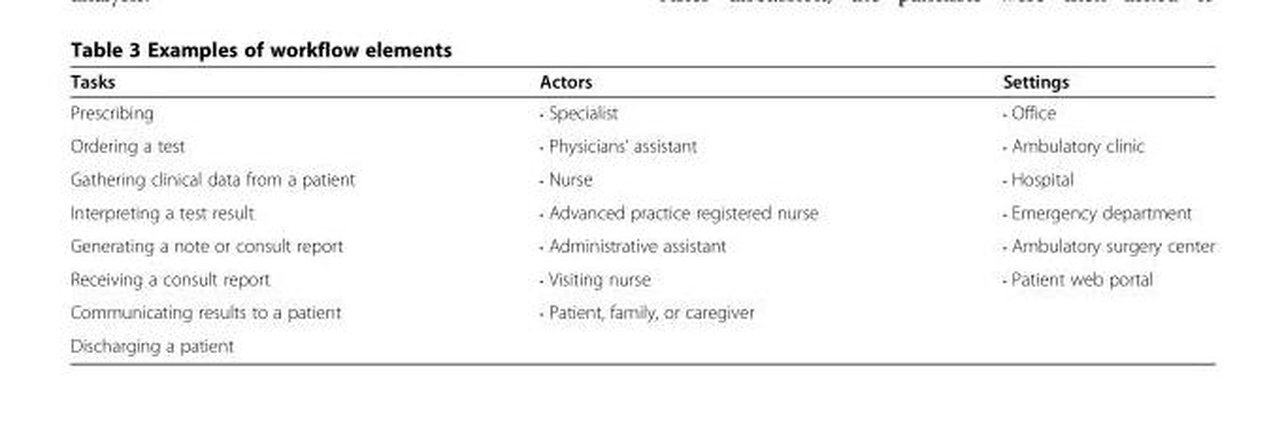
<table><thead><tr><td>Tasks</td><td>Actors</td><td>Settings</td></tr></thead><tbody><tr><td>Prescribing</td><td>• Specialist</td><td>• Office</td></tr><tr><td>Ordering a test</td><td>• Physicians’ assistant</td><td>• Ambulatory clinic</td></tr><tr><td>Gathering clinical data from a patient</td><td>• Nurse</td><td>• Hospital</td></tr><tr><td>Interpreting a test result</td><td>• Advanced practice registered nurse</td><td>• Emergency department</td></tr><tr><td>Generating a note or consult report</td><td>• Administrative assistant</td><td>• Ambulatory surgery center</td></tr><tr><td>Receiving a consult report</td><td>• Visiting nurse</td><td>• Patient web portal</td></tr><tr><td>Communicating results to a patient</td><td>• Patient, family, or caregiver</td><td></td></tr><tr><td>Discharging a patient</td><td></td><td></td></tr></tbody></table>